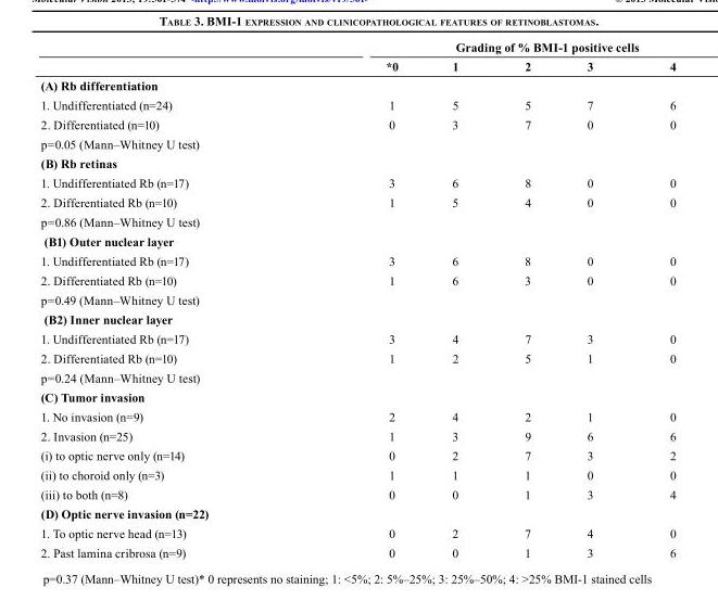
<table><thead><tr><td rowspan="2"></td><td colspan="5">Grading of % BMI-1 positive cells</td></tr><tr><td>*0</td><td>1</td><td>2</td><td>3</td><td>4</td></tr></thead><tbody><tr><td colspan="6">(A) Rb differentiation</td></tr><tr><td>1. Undifferentiated (n=24)</td><td>1</td><td>5</td><td>5</td><td>7</td><td>6</td></tr><tr><td>2. Differentiated (n=10)</td><td>0</td><td>3</td><td>7</td><td>0</td><td>0</td></tr><tr><td colspan="6">p=0.05 (Mann–Whitney U test)</td></tr><tr><td colspan="6">(B) Rb retinas</td></tr><tr><td>1. Undifferentiated Rb (n=17)</td><td>3</td><td>6</td><td>8</td><td>0</td><td>0</td></tr><tr><td>2. Differentiated Rb (n=10)</td><td>1</td><td>5</td><td>4</td><td>0</td><td>0</td></tr><tr><td colspan="6">p=0.86 (Mann–Whitney U test)</td></tr><tr><td colspan="6">(B1) Outer nuclear layer</td></tr><tr><td>1. Undifferentiated Rb (n=17)</td><td>3</td><td>6</td><td>8</td><td>0</td><td>0</td></tr><tr><td>2. Differentiated Rb (n=10)</td><td>1</td><td>6</td><td>3</td><td>0</td><td>0</td></tr><tr><td colspan="6">p=0.49 (Mann–Whitney U test)</td></tr><tr><td colspan="6">(B2) Inner nuclear layer</td></tr><tr><td>1. Undifferentiated Rb (n=17)</td><td>3</td><td>4</td><td>7</td><td>3</td><td>0</td></tr><tr><td>2. Differentiated Rb (n=10)</td><td>1</td><td>2</td><td>5</td><td>1</td><td>0</td></tr><tr><td colspan="6">p=0.24 (Mann–Whitney U test)</td></tr><tr><td colspan="6">(C) Tumor invasion</td></tr><tr><td>1. No invasion (n=9)</td><td>2</td><td>4</td><td>2</td><td>1</td><td>0</td></tr><tr><td>2. Invasion (n=25)</td><td>1</td><td>3</td><td>9</td><td>6</td><td>6</td></tr><tr><td>(i) to optic nerve only (n=14)</td><td>0</td><td>2</td><td>7</td><td>3</td><td>2</td></tr><tr><td>(ii) to choroid only (n=3)</td><td>1</td><td>1</td><td>1</td><td>0</td><td>0</td></tr><tr><td>(iii) to both (n=8)</td><td>0</td><td>0</td><td>1</td><td>3</td><td>4</td></tr><tr><td colspan="6">(D) Optic nerve invasion (n=22)</td></tr><tr><td>1. To optic nerve head (n=13)</td><td>0</td><td>2</td><td>7</td><td>4</td><td>0</td></tr><tr><td>2. Past lamina cribrosa (n=9)</td><td>0</td><td>0</td><td>1</td><td>3</td><td>6</td></tr></tbody></table>